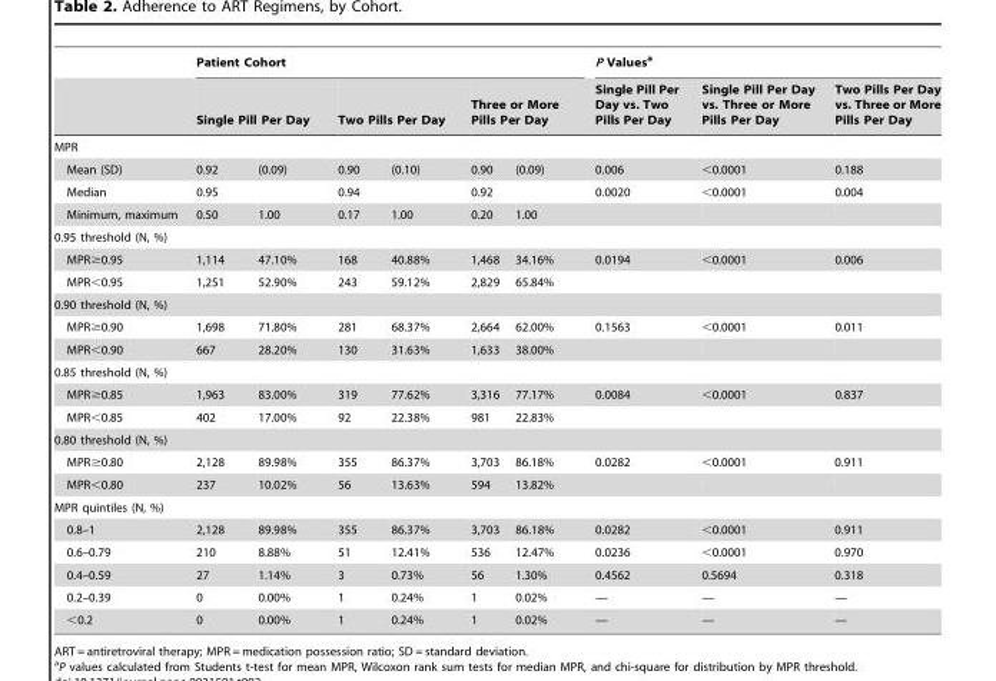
<table><thead><tr><td rowspan="2"></td><td colspan="6">Patient Cohort</td><td colspan="3">P Values<sup>a</sup></td></tr><tr><td colspan="2">Single Pill Per Day</td><td colspan="2">Two Pills Per Day</td><td colspan="2">Three or More Pills Per Day</td><td>Single Pill Per Day vs. Two Pills Per Day</td><td>Single Pill Per Day vs. Three or More Pills Per Day</td><td>Two Pills Per Day vs. Three or More Pills Per Day</td></tr><tr><td colspan="10">MPR</td></tr><tr><td>Mean (SD)</td><td>0.92</td><td>(0.09)</td><td>0.90</td><td>(0.10)</td><td>0.90</td><td>(0.09)</td><td>0.006</td><td>&lt;0.0001</td><td>0.188</td></tr></thead><tbody><tr><td>Median</td><td>0.95</td><td></td><td>0.94</td><td></td><td>0.92</td><td></td><td>0.0020</td><td>&lt;0.0001</td><td>0.004</td></tr><tr><td>Minimum, maximum</td><td>0.50</td><td>1.00</td><td>0.17</td><td>1.00</td><td>0.20</td><td>1.00</td><td></td><td></td><td></td></tr><tr><td colspan="10">0.95 threshold (N, %)</td></tr><tr><td>MPR≥0.95</td><td>1,114</td><td>47.10%</td><td>168</td><td>40.88%</td><td>1,468</td><td>34.16%</td><td>0.0194</td><td>&lt;0.0001</td><td>0.006</td></tr><tr><td>MPR&lt;0.95</td><td>1,251</td><td>52.90%</td><td>243</td><td>59.12%</td><td>2,829</td><td>65.84%</td><td></td><td></td><td></td></tr><tr><td colspan="10">0.90 threshold (N, %)</td></tr><tr><td>MPR≥0.90</td><td>1,698</td><td>71.80%</td><td>281</td><td>68.37%</td><td>2,664</td><td>62.00%</td><td>0.1563</td><td>&lt;0.0001</td><td>0.011</td></tr><tr><td>MPR&lt;0.90</td><td>667</td><td>28.20%</td><td>130</td><td>31.63%</td><td>1,633</td><td>38.00%</td><td></td><td></td><td></td></tr><tr><td colspan="10">0.85 threshold (N, %)</td></tr><tr><td>MPR≥0.85</td><td>1,963</td><td>83.00%</td><td>319</td><td>77.62%</td><td>3,316</td><td>77.17%</td><td>0.0084</td><td>&lt;0.0001</td><td>0.837</td></tr><tr><td>MPR&lt;0.85</td><td>402</td><td>17.00%</td><td>92</td><td>22.38%</td><td>981</td><td>22.83%</td><td></td><td></td><td></td></tr><tr><td colspan="10">0.80 threshold (N, %)</td></tr><tr><td>MPR≥0.80</td><td>2,128</td><td>89.98%</td><td>355</td><td>86.37%</td><td>3,703</td><td>86.18%</td><td>0.0282</td><td>&lt;0.0001</td><td>0.911</td></tr><tr><td>MPR&lt;0.80</td><td>237</td><td>10.02%</td><td>56</td><td>13.63%</td><td>594</td><td>13.82%</td><td></td><td></td><td></td></tr><tr><td colspan="10">MPR quintiles (N, %)</td></tr><tr><td>0.8–1</td><td>2,128</td><td>89.98%</td><td>355</td><td>86.37%</td><td>3,703</td><td>86.18%</td><td>0.0282</td><td>&lt;0.0001</td><td>0.911</td></tr><tr><td>0.6–0.79</td><td>210</td><td>8.88%</td><td>51</td><td>12.41%</td><td>536</td><td>12.47%</td><td>0.0236</td><td>&lt;0.0001</td><td>0.970</td></tr><tr><td>0.4–0.59</td><td>27</td><td>1.14%</td><td>3</td><td>0.73%</td><td>56</td><td>1.30%</td><td>0.4562</td><td>0.5694</td><td>0.318</td></tr><tr><td>0.2–0.39</td><td>0</td><td>0.00%</td><td>1</td><td>0.24%</td><td>1</td><td>0.02%</td><td>—</td><td>—</td><td>—</td></tr><tr><td>&lt;0.2</td><td>0</td><td>0.00%</td><td>1</td><td>0.24%</td><td>1</td><td>0.02%</td><td>—</td><td>—</td><td>—</td></tr></tbody></table>